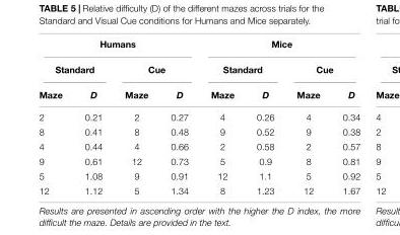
<table><thead><tr><td colspan="4">Humans</td><td colspan="4">Mice</td></tr><tr><td colspan="2">Standard</td><td colspan="2">Cue</td><td colspan="2">Standard</td><td colspan="2">Cue</td></tr><tr><td>Maze</td><td>D</td><td>Maze</td><td>D</td><td>Maze</td><td>D</td><td>Maze</td><td>D</td></tr></thead><tbody><tr><td>2</td><td>0.21</td><td>2</td><td>0.27</td><td>4</td><td>0.26</td><td>4</td><td>0.34</td></tr><tr><td>8</td><td>0.41</td><td>8</td><td>0.48</td><td>9</td><td>0.52</td><td>9</td><td>0.38</td></tr><tr><td>4</td><td>0.44</td><td>4</td><td>0.66</td><td>2</td><td>0.58</td><td>2</td><td>0.57</td></tr><tr><td>9</td><td>0.61</td><td>12</td><td>0.73</td><td>5</td><td>0.9</td><td>8</td><td>0.81</td></tr><tr><td>5</td><td>1.08</td><td>9</td><td>0.91</td><td>12</td><td>1.1</td><td>5</td><td>0.92</td></tr><tr><td>12</td><td>1.12</td><td>5</td><td>1.34</td><td>8</td><td>1.23</td><td>12</td><td>1.67</td></tr></tbody></table>